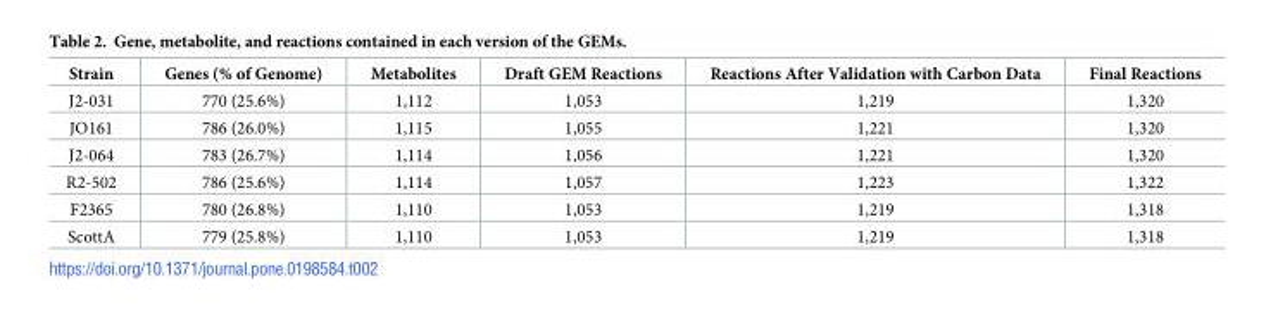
<table><thead><tr><td>Strain</td><td>Genes (% of Genome)</td><td>Metabolites</td><td>Draft GEM Reactions</td><td>Reactions After Validation with Carbon Data</td><td>Final Reactions</td></tr></thead><tbody><tr><td>J2-031</td><td>770 (25.6%)</td><td>1,112</td><td>1,053</td><td>1,219</td><td>1,320</td></tr><tr><td>JO161</td><td>786 (26.0%)</td><td>1,115</td><td>1,055</td><td>1,221</td><td>1,320</td></tr><tr><td>J2-064</td><td>783 (26.7%)</td><td>1,114</td><td>1,056</td><td>1,221</td><td>1,320</td></tr><tr><td>R2-502</td><td>786 (25.6%)</td><td>1,114</td><td>1,057</td><td>1,223</td><td>1,322</td></tr><tr><td>F2365</td><td>780 (26.8%)</td><td>1,110</td><td>1,053</td><td>1,219</td><td>1,318</td></tr><tr><td>ScottA</td><td>779 (25.8%)</td><td>1,110</td><td>1,053</td><td>1,219</td><td>1,318</td></tr></tbody></table>